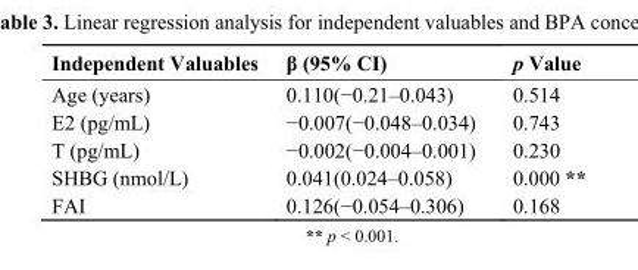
<table><thead><tr><td>Independent Valuables</td><td>β (95% CI)</td><td>p Value</td></tr></thead><tbody><tr><td>Age (years)</td><td>0.110(−0.21–0.043)</td><td>0.514</td></tr><tr><td>E2 (pg/mL)</td><td>−0.007(−0.048–0.034)</td><td>0.743</td></tr><tr><td>T (pg/mL)</td><td>−0.002(−0.004–0.001)</td><td>0.230</td></tr><tr><td>SHBG (nmol/L)</td><td>0.041(0.024–0.058)</td><td>0.000 **</td></tr><tr><td>FAI</td><td>0.126(−0.054–0.306)</td><td>0.168</td></tr></tbody></table>